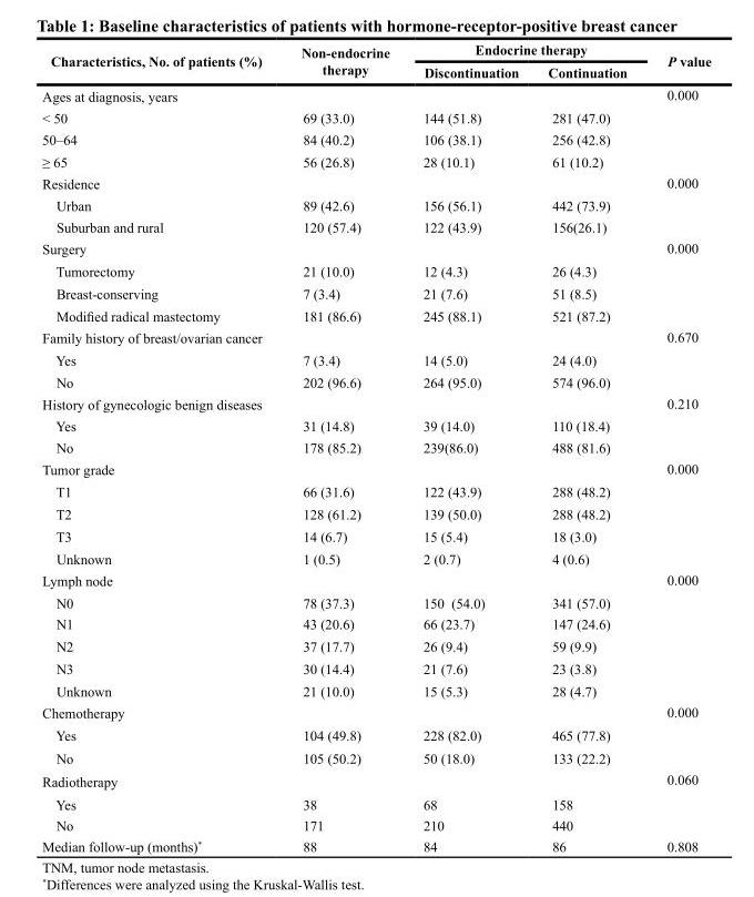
<table><thead><tr><td rowspan="2">Characteristics, No. of patients (%)</td><td rowspan="2">Non-endocrine therapy</td><td colspan="2">Endocrine therapy</td><td rowspan="2">P value</td></tr><tr><td>Discontinuation</td><td>Continuation</td></tr></thead><tbody><tr><td>Ages at diagnosis, years</td><td></td><td></td><td></td><td>0.000</td></tr><tr><td>&lt; 50</td><td>69 (33.0)</td><td>144 (51.8)</td><td>281 (47.0)</td><td></td></tr><tr><td>50–64</td><td>84 (40.2)</td><td>106 (38.1)</td><td>256 (42.8)</td><td></td></tr><tr><td>≥ 65</td><td>56 (26.8)</td><td>28 (10.1)</td><td>61 (10.2)</td><td></td></tr><tr><td>Residence</td><td></td><td></td><td></td><td>0.000</td></tr><tr><td>Urban</td><td>89 (42.6)</td><td>156 (56.1)</td><td>442 (73.9)</td><td></td></tr><tr><td>Suburban and rural</td><td>120 (57.4)</td><td>122 (43.9)</td><td>156(26.1)</td><td></td></tr><tr><td>Surgery</td><td></td><td></td><td></td><td>0.000</td></tr><tr><td>Tumorectomy</td><td>21 (10.0)</td><td>12 (4.3)</td><td>26 (4.3)</td><td></td></tr><tr><td>Breast-conserving</td><td>7 (3.4)</td><td>21 (7.6)</td><td>51 (8.5)</td><td></td></tr><tr><td>Modified radical mastectomy</td><td>181 (86.6)</td><td>245 (88.1)</td><td>521 (87.2)</td><td></td></tr><tr><td>Family history of breast/ovarian cancer</td><td></td><td></td><td></td><td>0.670</td></tr><tr><td>Yes</td><td>7 (3.4)</td><td>14 (5.0)</td><td>24 (4.0)</td><td></td></tr><tr><td>No</td><td>202 (96.6)</td><td>264 (95.0)</td><td>574 (96.0)</td><td></td></tr><tr><td>History of gynecologic benign diseases</td><td></td><td></td><td></td><td>0.210</td></tr><tr><td>Yes</td><td>31 (14.8)</td><td>39 (14.0)</td><td>110 (18.4)</td><td></td></tr><tr><td>No</td><td>178 (85.2)</td><td>239(86.0)</td><td>488 (81.6)</td><td></td></tr><tr><td>Tumor grade</td><td></td><td></td><td></td><td>0.000</td></tr><tr><td>T1</td><td>66 (31.6)</td><td>122 (43.9)</td><td>288 (48.2)</td><td></td></tr><tr><td>T2</td><td>128 (61.2)</td><td>139 (50.0)</td><td>288 (48.2)</td><td></td></tr><tr><td>T3</td><td>14 (6.7)</td><td>15 (5.4)</td><td>18 (3.0)</td><td></td></tr><tr><td>Unknown</td><td>1 (0.5)</td><td>2 (0.7)</td><td>4 (0.6)</td><td></td></tr><tr><td>Lymph node</td><td></td><td></td><td></td><td>0.000</td></tr><tr><td>N0</td><td>78 (37.3)</td><td>150 (54.0)</td><td>341 (57.0)</td><td></td></tr><tr><td>N1</td><td>43 (20.6)</td><td>66 (23.7)</td><td>147 (24.6)</td><td></td></tr><tr><td>N2</td><td>37 (17.7)</td><td>26 (9.4)</td><td>59 (9.9)</td><td></td></tr><tr><td>N3</td><td>30 (14.4)</td><td>21 (7.6)</td><td>23 (3.8)</td><td></td></tr><tr><td>Unknown</td><td>21 (10.0)</td><td>15 (5.3)</td><td>28 (4.7)</td><td></td></tr><tr><td>Chemotherapy</td><td></td><td></td><td></td><td>0.000</td></tr><tr><td>Yes</td><td>104 (49.8)</td><td>228 (82.0)</td><td>465 (77.8)</td><td></td></tr><tr><td>No</td><td>105 (50.2)</td><td>50 (18.0)</td><td>133 (22.2)</td><td></td></tr><tr><td>Radiotherapy</td><td></td><td></td><td></td><td>0.060</td></tr><tr><td>Yes</td><td>38</td><td>68</td><td>158</td><td></td></tr><tr><td>No</td><td>171</td><td>210</td><td>440</td><td></td></tr><tr><td>Median follow-up (months)*</td><td>88</td><td>84</td><td>86</td><td>0.808</td></tr></tbody></table>